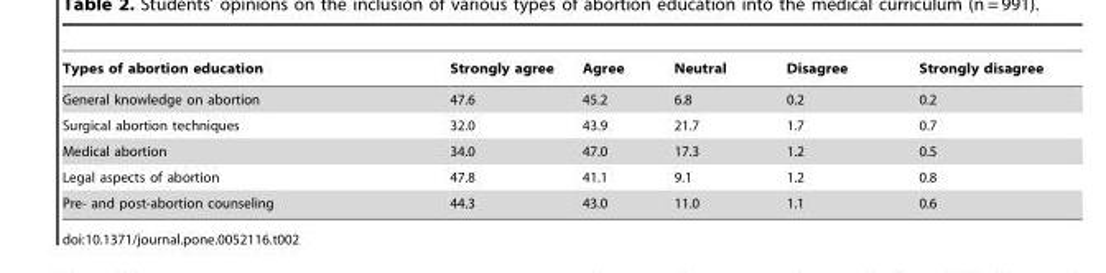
<table><thead><tr><td>Types of abortion education</td><td>Strongly agree</td><td>Agree</td><td>Neutral</td><td>Disagree</td><td>Strongly disagree</td></tr></thead><tbody><tr><td>General knowledge on abortion</td><td>47.6</td><td>45.2</td><td>6.8</td><td>0.2</td><td>0.2</td></tr><tr><td>Surgical abortion techniques</td><td>32.0</td><td>43.9</td><td>21.7</td><td>1.7</td><td>0.7</td></tr><tr><td>Medical abortion</td><td>34.0</td><td>47.0</td><td>17.3</td><td>1.2</td><td>0.5</td></tr><tr><td>Legal aspects of abortion</td><td>47.8</td><td>41.1</td><td>9.1</td><td>1.2</td><td>0.8</td></tr><tr><td>Pre- and post-abortion counseling</td><td>44.3</td><td>43.0</td><td>11.0</td><td>1.1</td><td>0.6</td></tr></tbody></table>